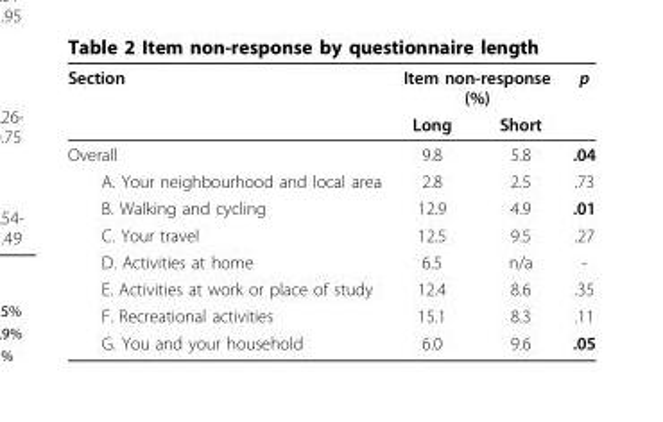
<table><thead><tr><td rowspan="2">Section</td><td colspan="2">Item non-response (%)</td><td rowspan="2">p</td></tr><tr><td>Long</td><td>Short</td></tr></thead><tbody><tr><td>Overall</td><td>9.8</td><td>5.8</td><td>.04</td></tr><tr><td>A. Your neighbourhood and local area</td><td>2.8</td><td>2.5</td><td>.73</td></tr><tr><td>B. Walking and cycling</td><td>12.9</td><td>4.9</td><td>.01</td></tr><tr><td>C. Your travel</td><td>12.5</td><td>9.5</td><td>.27</td></tr><tr><td>D. Activities at home</td><td>6.5</td><td>n/a</td><td>-</td></tr><tr><td>E. Activities at work or place of study</td><td>12.4</td><td>8.6</td><td>.35</td></tr><tr><td>F. Recreational activities</td><td>15.1</td><td>8.3</td><td>.11</td></tr><tr><td>G. You and your household</td><td>6.0</td><td>9.6</td><td>.05</td></tr></tbody></table>